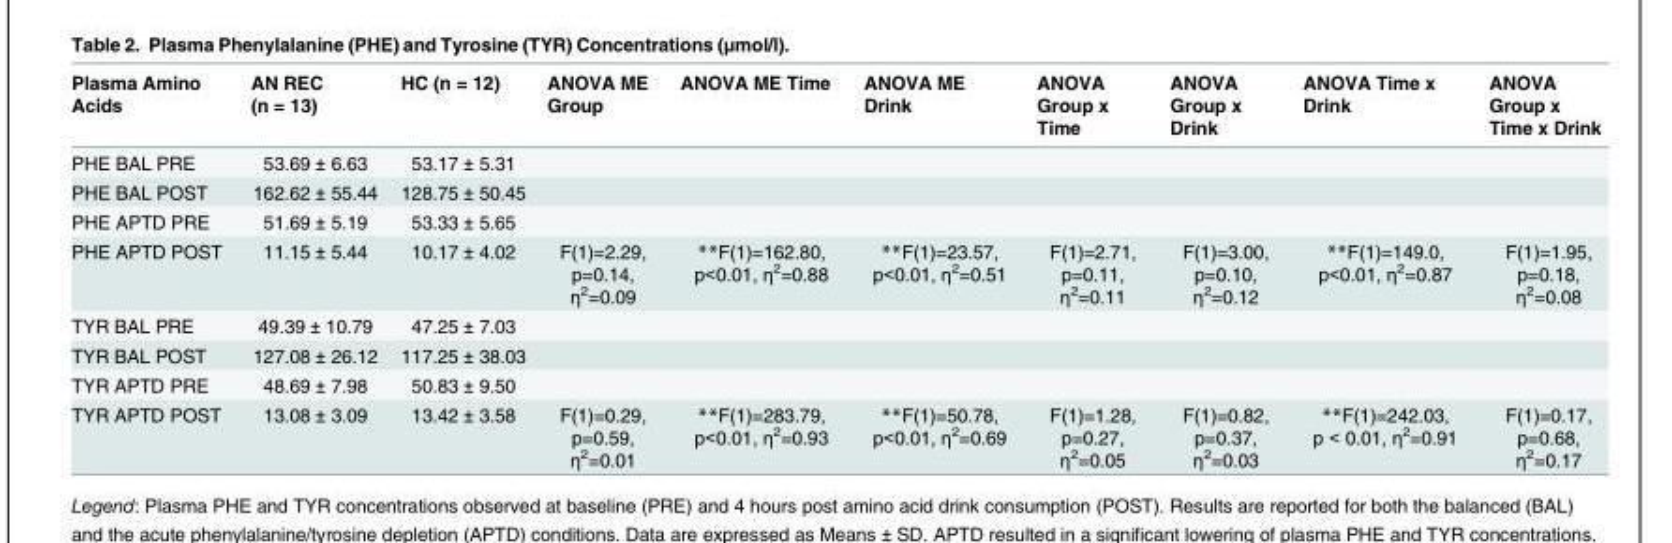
<table><thead><tr><td>Plasma Amino Acids</td><td>AN REC (n = 13)</td><td>HC (n = 12)</td><td>ANOVA ME Group</td><td>ANOVA ME Time</td><td>ANOVA ME Drink</td><td>ANOVA Group x Time</td><td>ANOVA Group x Drink</td><td>ANOVA Time x Drink</td><td>ANOVA Group x Time x Drink</td></tr></thead><tbody><tr><td>PHE BAL PRE</td><td>53.69 ± 6.63</td><td>53.17 ± 5.31</td><td></td><td></td><td></td><td></td><td></td><td></td><td></td></tr><tr><td>PHE BAL POST</td><td>162.62 ± 55.44</td><td>128.75 ± 50.45</td><td></td><td></td><td></td><td></td><td></td><td></td><td></td></tr><tr><td>PHE APTD PRE</td><td>51.69 ± 5.19</td><td>53.33 ± 5.65</td><td></td><td></td><td></td><td></td><td></td><td></td><td></td></tr><tr><td>PHE APTD POST</td><td>11.15 ± 5.44</td><td>10.17 ± 4.02</td><td>F(1)=2.29, p=0.14, η<sup>2</sup>=0.09</td><td>**F(1)=162.80, p&lt;0.01, η<sup>2</sup>=0.88</td><td>**F(1)=23.57, p&lt;0.01, η<sup>2</sup>=0.51</td><td>F(1)=2.71, p=0.11, η<sup>2</sup>=0.11</td><td>F(1)=3.00, p=0.10, η<sup>2</sup>=0.12</td><td>**F(1)=149.0, p&lt;0.01, η<sup>2</sup>=0.87</td><td>F(1)=1.95, p=0.18, η<sup>2</sup>=0.08</td></tr><tr><td>TYR BAL PRE</td><td>49.39 ± 10.79</td><td>47.25 ± 7.03</td><td></td><td></td><td></td><td></td><td></td><td></td><td></td></tr><tr><td>TYR BAL POST</td><td>127.08 ± 26.12</td><td>117.25 ± 38.03</td><td></td><td></td><td></td><td></td><td></td><td></td><td></td></tr><tr><td>TYR APTD PRE</td><td>48.69 ± 7.98</td><td>50.83 ± 9.50</td><td></td><td></td><td></td><td></td><td></td><td></td><td></td></tr><tr><td>TYR APTD POST</td><td>13.08 ± 3.09</td><td>13.42 ± 3.58</td><td>F(1)=0.29, p=0.59, η<sup>2</sup>=0.01</td><td>**F(1)=283.79, p&lt;0.01, η<sup>2</sup>=0.93</td><td>**F(1)=50.78, p&lt;0.01, η<sup>2</sup>=0.69</td><td>F(1)=1.28, p=0.27, η<sup>2</sup>=0.05</td><td>F(1)=0.82, p=0.37, η<sup>2</sup>=0.03</td><td>**F(1)=242.03, p &lt; 0.01, η<sup>2</sup>=0.91</td><td>F(1)=0.17, p=0.68, η<sup>2</sup>=0.17</td></tr></tbody></table>